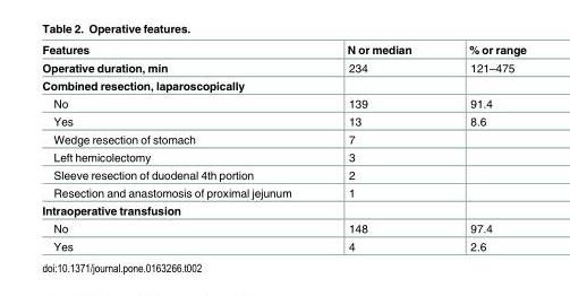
<table><thead><tr><td>Features</td><td>N or median</td><td>% or range</td></tr></thead><tbody><tr><td>Operative duration, min</td><td>234</td><td>121–475</td></tr><tr><td colspan="3">Combined resection, laparoscopically</td></tr><tr><td>No</td><td>139</td><td>91.4</td></tr><tr><td>Yes</td><td>13</td><td>8.6</td></tr><tr><td>Wedge resection of stomach</td><td>7</td><td></td></tr><tr><td>Left hemicolectomy</td><td>3</td><td></td></tr><tr><td>Sleeve resection of duodenal 4th portion</td><td>2</td><td></td></tr><tr><td>Resection and anastomosis of proximal jejunum</td><td>1</td><td></td></tr><tr><td colspan="3">Intraoperative transfusion</td></tr><tr><td>No</td><td>148</td><td>97.4</td></tr><tr><td>Yes</td><td>4</td><td>2.6</td></tr></tbody></table>